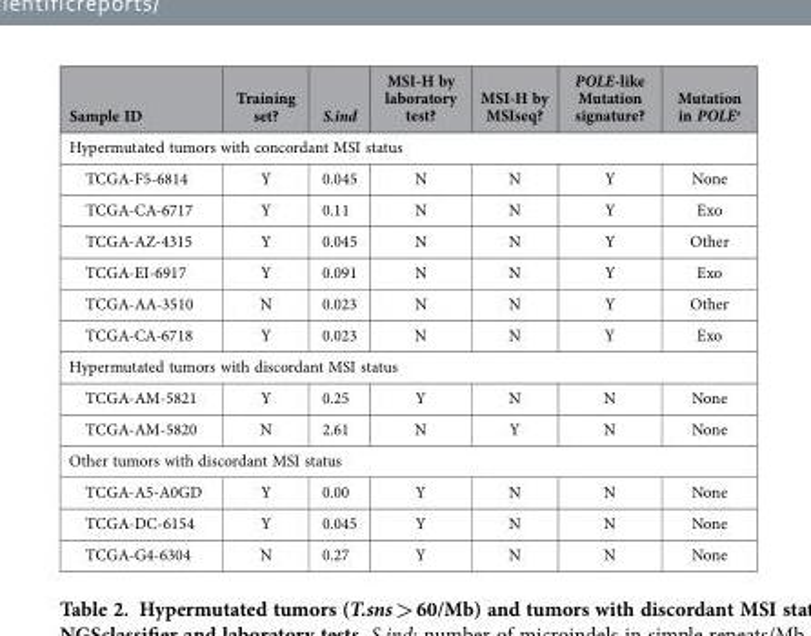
<table><thead><tr><td>Sample ID</td><td>Training set?</td><td>S.ind</td><td>MSI-H by laboratory test?</td><td>MSI-H by MSIseq?</td><td>POLE-like Mutation signature?</td><td>Mutation in POLE<sup>a</sup></td></tr></thead><tbody><tr><td colspan="7">Hypermutated tumors with concordant MSI status</td></tr><tr><td>TCGA-F5-6814</td><td>Y</td><td>0.045</td><td>N</td><td>N</td><td>Y</td><td>None</td></tr><tr><td>TCGA-CA-6717</td><td>Y</td><td>0.11</td><td>N</td><td>N</td><td>Y</td><td>Exo</td></tr><tr><td>TCGA-AZ-4315</td><td>Y</td><td>0.045</td><td>N</td><td>N</td><td>Y</td><td>Other</td></tr><tr><td>TCGA-EI-6917</td><td>Y</td><td>0.091</td><td>N</td><td>N</td><td>Y</td><td>Exo</td></tr><tr><td>TCGA-AA-3510</td><td>N</td><td>0.023</td><td>N</td><td>N</td><td>Y</td><td>Other</td></tr><tr><td>TCGA-CA-6718</td><td>Y</td><td>0.023</td><td>N</td><td>N</td><td>Y</td><td>Exo</td></tr><tr><td colspan="7">Hypermutated tumors with discordant MSI status</td></tr><tr><td>TCGA-AM-5821</td><td>Y</td><td>0.25</td><td>Y</td><td>N</td><td>N</td><td>None</td></tr><tr><td>TCGA-AM-5820</td><td>N</td><td>2.61</td><td>N</td><td>Y</td><td>N</td><td>None</td></tr><tr><td colspan="7">Other tumors with discordant MSI status</td></tr><tr><td>TCGA-A5-A0GD</td><td>Y</td><td>0.00</td><td>Y</td><td>N</td><td>N</td><td>None</td></tr><tr><td>TCGA-DC-6154</td><td>Y</td><td>0.045</td><td>Y</td><td>N</td><td>N</td><td>None</td></tr><tr><td>TCGA-G4-6304</td><td>N</td><td>0.27</td><td>Y</td><td>N</td><td>N</td><td>None</td></tr></tbody></table>